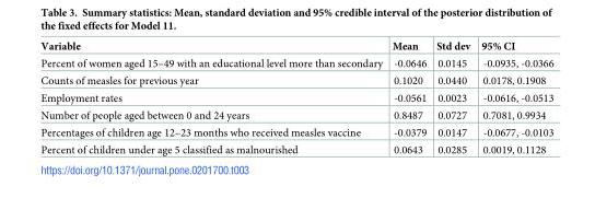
<table><thead><tr><td>Variable</td><td>Mean</td><td>Std dev</td><td>95% CI</td></tr></thead><tbody><tr><td>Percent of women aged 15–49 with an educational level more than secondary</td><td>-0.0646</td><td>0.0145</td><td>-0.0935, -0.0366</td></tr><tr><td>Counts of measles for previous year</td><td>0.1020</td><td>0.0440</td><td>0.0178, 0.1908</td></tr><tr><td>Employment rates</td><td>-0.0561</td><td>0.0023</td><td>-0.0616, -0.0513</td></tr><tr><td>Number of people aged between 0 and 24 years</td><td>0.8487</td><td>0.0727</td><td>0.7081, 0.9934</td></tr><tr><td>Percentages of children age 12–23 months who received measles vaccine</td><td>-0.0379</td><td>0.0147</td><td>-0.0677, -0.0103</td></tr><tr><td>Percent of children under age 5 classified as malnourished</td><td>0.0643</td><td>0.0285</td><td>0.0019, 0.1128</td></tr></tbody></table>